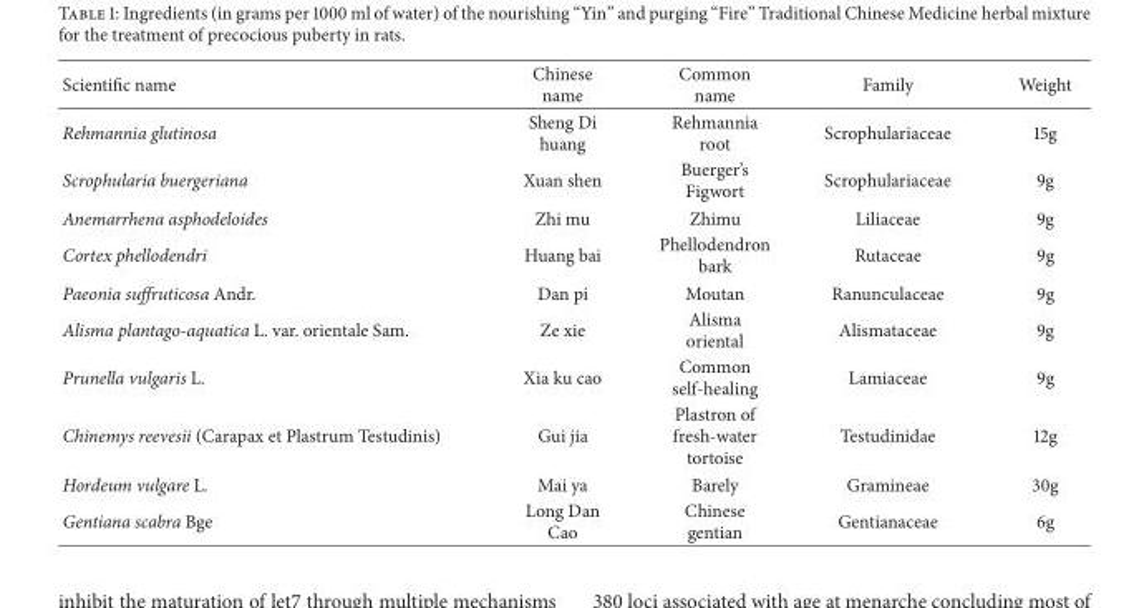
<table><thead><tr><td>Scientific name</td><td>Chinese name</td><td>Common name</td><td>Family</td><td>Weight</td></tr></thead><tbody><tr><td>Rehmannia glutinosa</td><td>Sheng Di huang</td><td>Rehmannia root</td><td>Scrophulariaceae</td><td>15g</td></tr><tr><td>Scrophularia buergeriana</td><td>Xuan shen</td><td>Buerger’s Figwort</td><td>Scrophulariaceae</td><td>9g</td></tr><tr><td>Anemarrhena asphodeloides</td><td>Zhi mu</td><td>Zhimu</td><td>Liliaceae</td><td>9g</td></tr><tr><td>Cortex phellodendri</td><td>Huang bai</td><td>Phellodendron bark</td><td>Rutaceae</td><td>9g</td></tr><tr><td>Paeonia suffruticosa Andr.</td><td>Dan pi</td><td>Moutan</td><td>Ranunculaceae</td><td>9g</td></tr><tr><td>Alisma plantago-aquatica L. var. orientale Sam.</td><td>Ze xie</td><td>Alisma oriental</td><td>Alismataceae</td><td>9g</td></tr><tr><td>Prunella vulgaris L.</td><td>Xia ku cao</td><td>Common self-healing</td><td>Lamiaceae</td><td>9g</td></tr><tr><td>Chinemys reevesii (Carapax et Plastrum Testudinis)</td><td>Gui jia</td><td>Plastron of fresh-water tortoise</td><td>Testudinidae</td><td>12g</td></tr><tr><td>Hordeum vulgare L.</td><td>Mai ya</td><td>Barely</td><td>Gramineae</td><td>30g</td></tr><tr><td>Gentiana scabra Bge</td><td>Long Dan Cao</td><td>Chinese gentian</td><td>Gentianaceae</td><td>6g</td></tr></tbody></table>